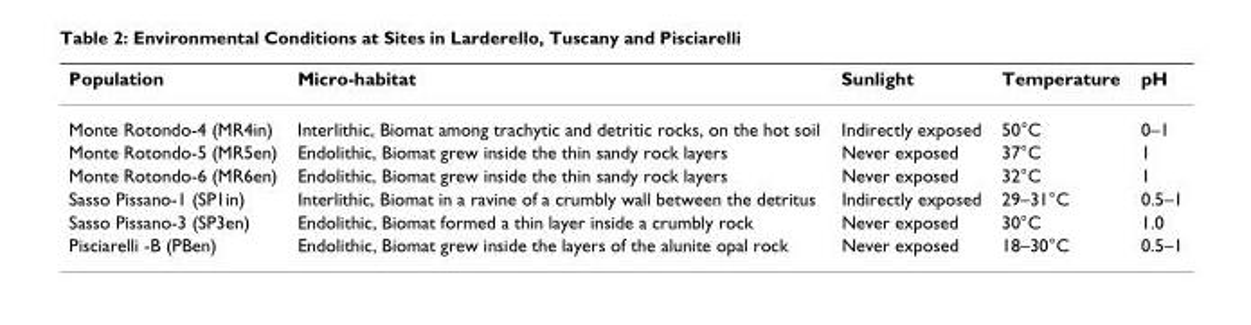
<table><thead><tr><td>Population</td><td>Micro-habitat</td><td>Sunlight</td><td>Temperature</td><td>pH</td></tr></thead><tbody><tr><td>Monte Rotondo-4 (MR4in)</td><td>Interlithic, Biomat among trachytic and detritic rocks, on the hot soil</td><td>Indirectly exposed</td><td>50°C</td><td>0–1</td></tr><tr><td>Monte Rotondo-5 (MR5en)</td><td>Endolithic, Biomat grew inside the thin sandy rock layers</td><td>Never exposed</td><td>37°C</td><td>1</td></tr><tr><td>Monte Rotondo-6 (MR6en)</td><td>Endolithic, Biomat grew inside the thin sandy rock layers</td><td>Never exposed</td><td>32°C</td><td>1</td></tr><tr><td>Sasso Pissano-1 (SP1in)</td><td>Interlithic, Biomat in a ravine of a crumbly wall between the detritus</td><td>Indirectly exposed</td><td>29–31°C</td><td>0.5–1</td></tr><tr><td>Sasso Pissano-3 (SP3en)</td><td>Endolithic, Biomat formed a thin layer inside a crumbly rock</td><td>Never exposed</td><td>30°C</td><td>1.0</td></tr><tr><td>Pisciarelli -B (PBen)</td><td>Endolithic, Biomat grew inside the layers of the alunite opal rock</td><td>Never exposed</td><td>18–30°C</td><td>0.5–1</td></tr></tbody></table>